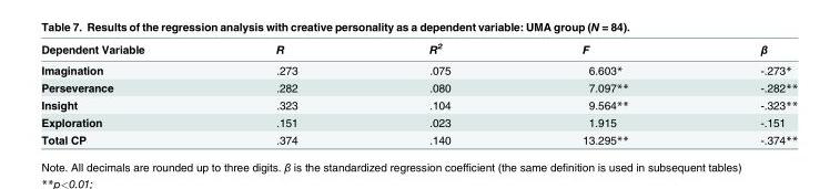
<table><thead><tr><td>Dependent Variable</td><td>R</td><td>R<sup>2</sup></td><td>F</td><td>β</td></tr></thead><tbody><tr><td>Imagination</td><td>.273</td><td>.075</td><td>6.603*</td><td>-.273*</td></tr><tr><td>Perseverance</td><td>.282</td><td>.080</td><td>7.097**</td><td>-.282**</td></tr><tr><td>Insight</td><td>.323</td><td>.104</td><td>9.564**</td><td>-.323**</td></tr><tr><td>Exploration</td><td>.151</td><td>.023</td><td>1.915</td><td>-.151</td></tr><tr><td>Total CP</td><td>.374</td><td>.140</td><td>13.295**</td><td>-.374**</td></tr></tbody></table>